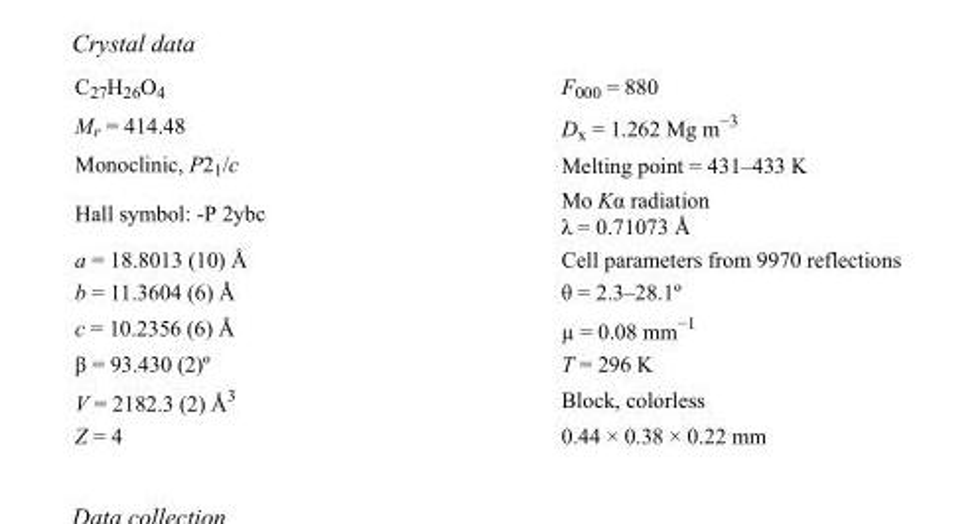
<table><tbody><tr><td>C<sub>27</sub>H<sub>26</sub>O<sub>4</sub></td><td>F000 = 880</td></tr><tr><td>M<sub>r</sub> = 414.48</td><td>D<sub>x</sub> = 1.262 Mg m<sup>−3</sup></td></tr><tr><td>Monoclinic, P2<sub>1</sub>/c</td><td>Melting point = 431–433 K</td></tr><tr><td>Hall symbol: -P 2ybc</td><td>Mo Kα radiation λ = 0.71073 Å</td></tr><tr><td>a = 18.8013 (10) Å</td><td>Cell parameters from 9970 reflections</td></tr><tr><td>b = 11.3604 (6) Å</td><td>θ = 2.3–28.1º</td></tr><tr><td>c = 10.2356 (6) Å</td><td>µ = 0.08 mm<sup>−1</sup></td></tr><tr><td>β = 93.430 (2)º</td><td>T = 296 K</td></tr><tr><td>V = 2182.3 (2) Å<sup>3</sup></td><td>Block, colorless</td></tr><tr><td>Z = 4</td><td>0.44 × 0.38 × 0.22 mm</td></tr></tbody></table>